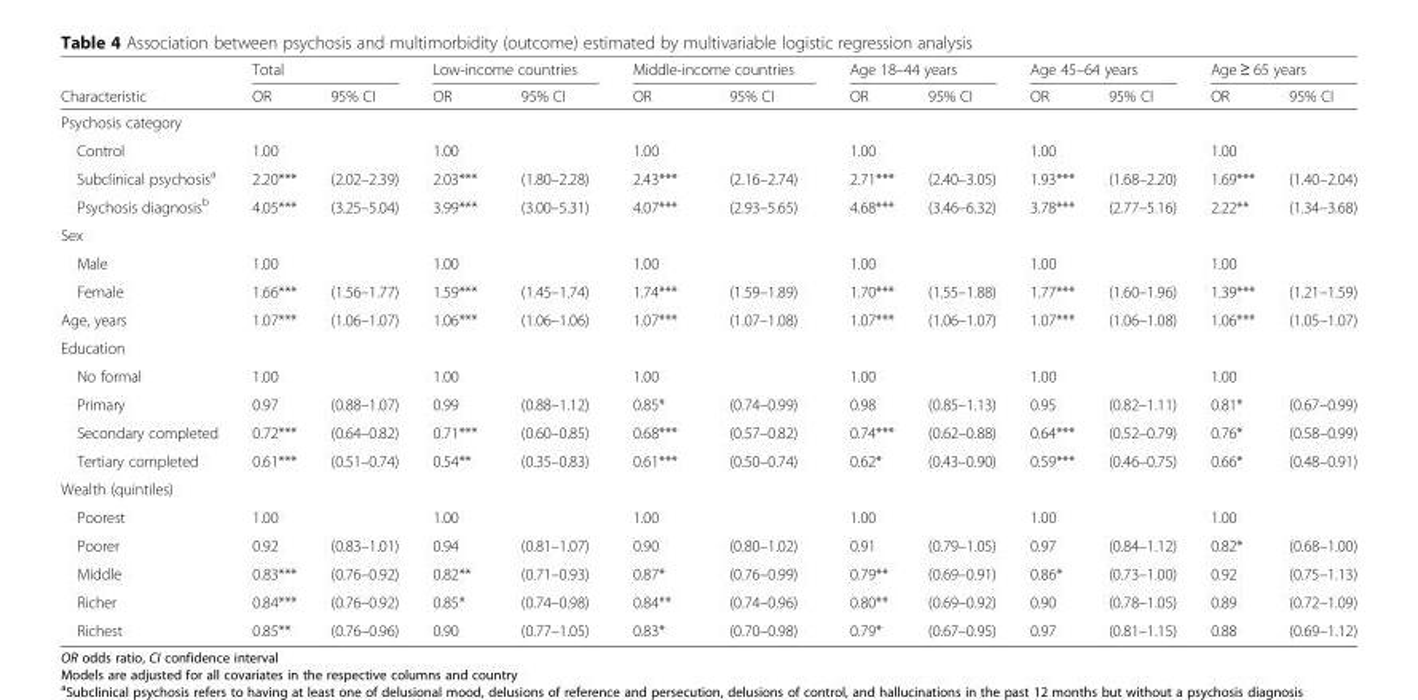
<table><thead><tr><td rowspan="2">Characteristic</td><td colspan="2">Total</td><td colspan="2">Low-income countries</td><td colspan="2">Middle-income countries</td><td colspan="2">Age 18–44 years</td><td colspan="2">Age 45–64 years</td><td colspan="2">Age ≥ 65 years</td></tr><tr><td>OR</td><td>95% CI</td><td>OR</td><td>95% CI</td><td>OR</td><td>95% CI</td><td>OR</td><td>95% CI</td><td>OR</td><td>95% CI</td><td>OR</td><td>95% CI</td></tr></thead><tbody><tr><td colspan="13">Psychosis category</td></tr><tr><td>Control</td><td>1.00</td><td></td><td>1.00</td><td></td><td>1.00</td><td></td><td>1.00</td><td></td><td>1.00</td><td></td><td>1.00</td><td></td></tr><tr><td>Subclinical psychosis<sup>a</sup></td><td>2.20***</td><td>(2.02–2.39)</td><td>2.03***</td><td>(1.80–2.28)</td><td>2.43***</td><td>(2.16–2.74)</td><td>2.71***</td><td>(2.40–3.05)</td><td>1.93***</td><td>(1.68–2.20)</td><td>1.69***</td><td>(1.40–2.04)</td></tr><tr><td>Psychosis diagnosis<sup>b</sup></td><td>4.05***</td><td>(3.25–5.04)</td><td>3.99***</td><td>(3.00–5.31)</td><td>4.07***</td><td>(2.93–5.65)</td><td>4.68***</td><td>(3.46–6.32)</td><td>3.78***</td><td>(2.77–5.16)</td><td>2.22**</td><td>(1.34–3.68)</td></tr><tr><td colspan="13">Sex</td></tr><tr><td>Male</td><td>1.00</td><td></td><td>1.00</td><td></td><td>1.00</td><td></td><td>1.00</td><td></td><td>1.00</td><td></td><td>1.00</td><td></td></tr><tr><td>Female</td><td>1.66***</td><td>(1.56–1.77)</td><td>1.59***</td><td>(1.45–1.74)</td><td>1.74***</td><td>(1.59–1.89)</td><td>1.70***</td><td>(1.55–1.88)</td><td>1.77***</td><td>(1.60–1.96)</td><td>1.39***</td><td>(1.21–1.59)</td></tr><tr><td>Age, years</td><td>1.07***</td><td>(1.06–1.07)</td><td>1.06***</td><td>(1.06–1.06)</td><td>1.07***</td><td>(1.07–1.08)</td><td>1.07***</td><td>(1.06–1.07)</td><td>1.07***</td><td>(1.06–1.08)</td><td>1.06***</td><td>(1.05–1.07)</td></tr><tr><td colspan="13">Education</td></tr><tr><td>No formal</td><td>1.00</td><td></td><td>1.00</td><td></td><td>1.00</td><td></td><td>1.00</td><td></td><td>1.00</td><td></td><td>1.00</td><td></td></tr><tr><td>Primary</td><td>0.97</td><td>(0.88–1.07)</td><td>0.99</td><td>(0.88–1.12)</td><td>0.85*</td><td>(0.74–0.99)</td><td>0.98</td><td>(0.85–1.13)</td><td>0.95</td><td>(0.82–1.11)</td><td>0.81*</td><td>(0.67–0.99)</td></tr><tr><td>Secondary completed</td><td>0.72***</td><td>(0.64–0.82)</td><td>0.71***</td><td>(0.60–0.85)</td><td>0.68***</td><td>(0.57–0.82)</td><td>0.74***</td><td>(0.62–0.88)</td><td>0.64***</td><td>(0.52–0.79)</td><td>0.76*</td><td>(0.58–0.99)</td></tr><tr><td>Tertiary completed</td><td>0.61***</td><td>(0.51–0.74)</td><td>0.54**</td><td>(0.35–0.83)</td><td>0.61***</td><td>(0.50–0.74)</td><td>0.62*</td><td>(0.43–0.90)</td><td>0.59***</td><td>(0.46–0.75)</td><td>0.66*</td><td>(0.48–0.91)</td></tr><tr><td colspan="13">Wealth (quintiles)</td></tr><tr><td>Poorest</td><td>1.00</td><td></td><td>1.00</td><td></td><td>1.00</td><td></td><td>1.00</td><td></td><td>1.00</td><td></td><td>1.00</td><td></td></tr><tr><td>Poorer</td><td>0.92</td><td>(0.83–1.01)</td><td>0.94</td><td>(0.81–1.07)</td><td>0.90</td><td>(0.80–1.02)</td><td>0.91</td><td>(0.79–1.05)</td><td>0.97</td><td>(0.84–1.12)</td><td>0.82*</td><td>(0.68–1.00)</td></tr><tr><td>Middle</td><td>0.83***</td><td>(0.76–0.92)</td><td>0.82**</td><td>(0.71–0.93)</td><td>0.87*</td><td>(0.76–0.99)</td><td>0.79**</td><td>(0.69–0.91)</td><td>0.86*</td><td>(0.73–1.00)</td><td>0.92</td><td>(0.75–1.13)</td></tr><tr><td>Richer</td><td>0.84***</td><td>(0.76–0.92)</td><td>0.85*</td><td>(0.74–0.98)</td><td>0.84**</td><td>(0.74–0.96)</td><td>0.80**</td><td>(0.69–0.92)</td><td>0.90</td><td>(0.78–1.05)</td><td>0.89</td><td>(0.72–1.09)</td></tr><tr><td>Richest</td><td>0.85**</td><td>(0.76–0.96)</td><td>0.90</td><td>(0.77–1.05)</td><td>0.83*</td><td>(0.70–0.98)</td><td>0.79*</td><td>(0.67–0.95)</td><td>0.97</td><td>(0.81–1.15)</td><td>0.88</td><td>(0.69–1.12)</td></tr></tbody></table>